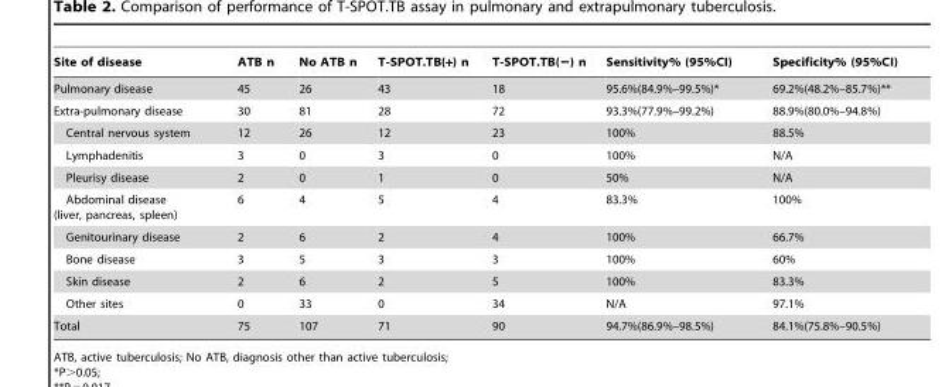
<table><thead><tr><td>Site of disease</td><td>ATB n</td><td>No ATB n</td><td>T-SPOT.TB(+) n</td><td>T-SPOT.TB(−) n</td><td>Sensitivity% (95%CI)</td><td>Specificity% (95%CI)</td></tr></thead><tbody><tr><td>Pulmonary disease</td><td>45</td><td>26</td><td>43</td><td>18</td><td>95.6%(84.9%–99.5%)*</td><td>69.2%(48.2%–85.7%)**</td></tr><tr><td>Extra-pulmonary disease</td><td>30</td><td>81</td><td>28</td><td>72</td><td>93.3%(77.9%–99.2%)</td><td>88.9%(80.0%–94.8%)</td></tr><tr><td>Central nervous system</td><td>12</td><td>26</td><td>12</td><td>23</td><td>100%</td><td>88.5%</td></tr><tr><td>Lymphadenitis</td><td>3</td><td>0</td><td>3</td><td>0</td><td>100%</td><td>N/A</td></tr><tr><td>Pleurisy disease</td><td>2</td><td>0</td><td>1</td><td>0</td><td>50%</td><td>N/A</td></tr><tr><td>Abdominal disease (liver, pancreas, spleen)</td><td>6</td><td>4</td><td>5</td><td>4</td><td>83.3%</td><td>100%</td></tr><tr><td>Genitourinary disease</td><td>2</td><td>6</td><td>2</td><td>4</td><td>100%</td><td>66.7%</td></tr><tr><td>Bone disease</td><td>3</td><td>5</td><td>3</td><td>3</td><td>100%</td><td>60%</td></tr><tr><td>Skin disease</td><td>2</td><td>6</td><td>2</td><td>5</td><td>100%</td><td>83.3%</td></tr><tr><td>Other sites</td><td>0</td><td>33</td><td>0</td><td>34</td><td>N/A</td><td>97.1%</td></tr><tr><td>Total</td><td>75</td><td>107</td><td>71</td><td>90</td><td>94.7%(86.9%–98.5%)</td><td>84.1%(75.8%–90.5%)</td></tr></tbody></table>